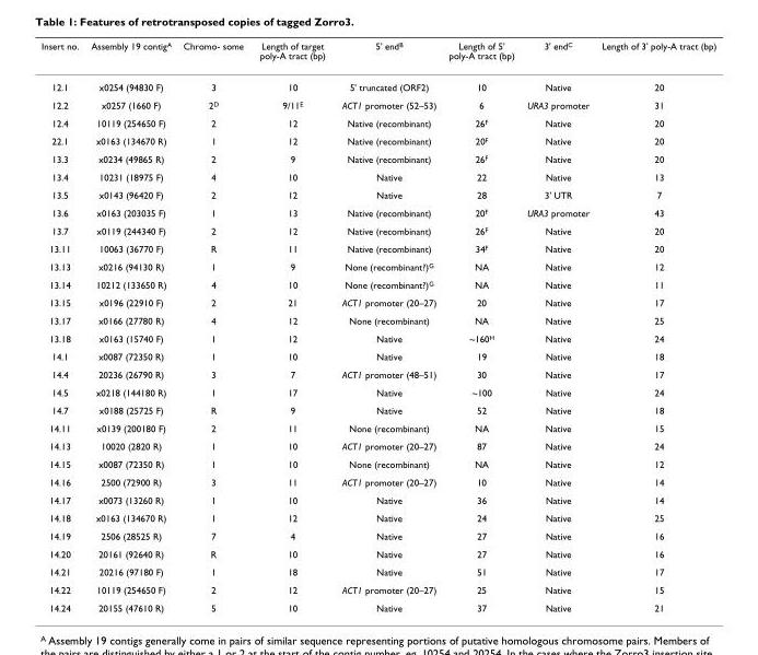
<table><thead><tr><td>Insert no.</td><td>Assembly 19 contig<sup>A</sup></td><td>Chromo- some</td><td>Length of target poly-A tract (bp)</td><td>5&#x27; end<sup>B</sup></td><td>Length of 5&#x27; poly-A tract (bp)</td><td>3&#x27; end<sup>C</sup></td><td>Length of 3&#x27; poly-A tract (bp)</td></tr></thead><tbody><tr><td>12.1</td><td>x0254 (94830 F)</td><td>3</td><td>10</td><td>5&#x27; truncated (ORF2)</td><td>10</td><td>Native</td><td>20</td></tr><tr><td>12.2</td><td>x0257 (1660 F)</td><td>2<sup>D</sup></td><td>9/11<sup>E</sup></td><td>ACT1 promoter (52–53)</td><td>6</td><td>URA3 promoter</td><td>31</td></tr><tr><td>12.4</td><td>10119 (254650 F)</td><td>2</td><td>12</td><td>Native (recombinant)</td><td>26<sup>F</sup></td><td>Native</td><td>20</td></tr><tr><td>22.1</td><td>x0163 (134670 R)</td><td>1</td><td>12</td><td>Native (recombinant)</td><td>20<sup>F</sup></td><td>Native</td><td>20</td></tr><tr><td>13.3</td><td>x0234 (49865 R)</td><td>2</td><td>9</td><td>Native (recombinant)</td><td>26<sup>F</sup></td><td>Native</td><td>20</td></tr><tr><td>13.4</td><td>10231 (18975 F)</td><td>4</td><td>10</td><td>Native</td><td>22</td><td>Native</td><td>13</td></tr><tr><td>13.5</td><td>x0143 (96420 F)</td><td>2</td><td>12</td><td>Native</td><td>28</td><td>3&#x27; UTR</td><td>7</td></tr><tr><td>13.6</td><td>x0163 (203035 F)</td><td>1</td><td>13</td><td>Native (recombinant)</td><td>20<sup>F</sup></td><td>URA3 promoter</td><td>43</td></tr><tr><td>13.7</td><td>x0119 (244340 F)</td><td>2</td><td>12</td><td>Native (recombinant)</td><td>26<sup>F</sup></td><td>Native</td><td>20</td></tr><tr><td>13.11</td><td>10063 (36770 F)</td><td>R</td><td>11</td><td>Native (recombinant)</td><td>34<sup>F</sup></td><td>Native</td><td>20</td></tr><tr><td>13.13</td><td>x0216 (94130 R)</td><td>1</td><td>9</td><td>None (recombinant?)<sup>G</sup></td><td>NA</td><td>Native</td><td>12</td></tr><tr><td>13.14</td><td>10212 (133650 R)</td><td>4</td><td>10</td><td>None (recombinant?)<sup>G</sup></td><td>NA</td><td>Native</td><td>11</td></tr><tr><td>13.15</td><td>x0196 (22910 F)</td><td>2</td><td>21</td><td>ACT1 promoter (20–27)</td><td>20</td><td>Native</td><td>17</td></tr><tr><td>13.17</td><td>x0166 (27780 R)</td><td>4</td><td>12</td><td>None (recombinant)</td><td>NA</td><td>Native</td><td>25</td></tr><tr><td>13.18</td><td>x0163 (15740 F)</td><td>1</td><td>12</td><td>Native</td><td>~160<sup>H</sup></td><td>Native</td><td>24</td></tr><tr><td>14.1</td><td>x0087 (72350 R)</td><td>1</td><td>10</td><td>Native</td><td>19</td><td>Native</td><td>18</td></tr><tr><td>14.4</td><td>20236 (26790 R)</td><td>3</td><td>7</td><td>ACT1 promoter (48–51)</td><td>30</td><td>Native</td><td>17</td></tr><tr><td>14.5</td><td>x0218 (144180 R)</td><td>1</td><td>17</td><td>Native</td><td>~100</td><td>Native</td><td>24</td></tr><tr><td>14.7</td><td>x0188 (25725 F)</td><td>R</td><td>9</td><td>Native</td><td>52</td><td>Native</td><td>18</td></tr><tr><td>14.11</td><td>x0139 (200180 F)</td><td>2</td><td>11</td><td>None (recombinant)</td><td>NA</td><td>Native</td><td>15</td></tr><tr><td>14.13</td><td>10020 (2820 R)</td><td>1</td><td>10</td><td>ACT1 promoter (20–27)</td><td>87</td><td>Native</td><td>24</td></tr><tr><td>14.15</td><td>x0087 (72350 R)</td><td>1</td><td>10</td><td>None (recombinant)</td><td>NA</td><td>Native</td><td>12</td></tr><tr><td>14.16</td><td>2500 (72900 R)</td><td>3</td><td>11</td><td>ACT1 promoter (20–27)</td><td>10</td><td>Native</td><td>14</td></tr><tr><td>14.17</td><td>x0073 (13260 R)</td><td>1</td><td>10</td><td>Native</td><td>36</td><td>Native</td><td>14</td></tr><tr><td>14.18</td><td>x0163 (134670 R)</td><td>1</td><td>12</td><td>Native</td><td>24</td><td>Native</td><td>25</td></tr><tr><td>14.19</td><td>2506 (28525 R)</td><td>7</td><td>4</td><td>Native</td><td>27</td><td>Native</td><td>16</td></tr><tr><td>14.20</td><td>20161 (92640 R)</td><td>R</td><td>10</td><td>Native</td><td>27</td><td>Native</td><td>16</td></tr><tr><td>14.21</td><td>20216 (97180 F)</td><td>1</td><td>18</td><td>Native</td><td>51</td><td>Native</td><td>17</td></tr><tr><td>14.22</td><td>10119 (254650 F)</td><td>2</td><td>12</td><td>ACT1 promoter (20–27)</td><td>25</td><td>Native</td><td>15</td></tr><tr><td>14.24</td><td>20155 (47610 R)</td><td>5</td><td>10</td><td>Native</td><td>37</td><td>Native</td><td>21</td></tr></tbody></table>